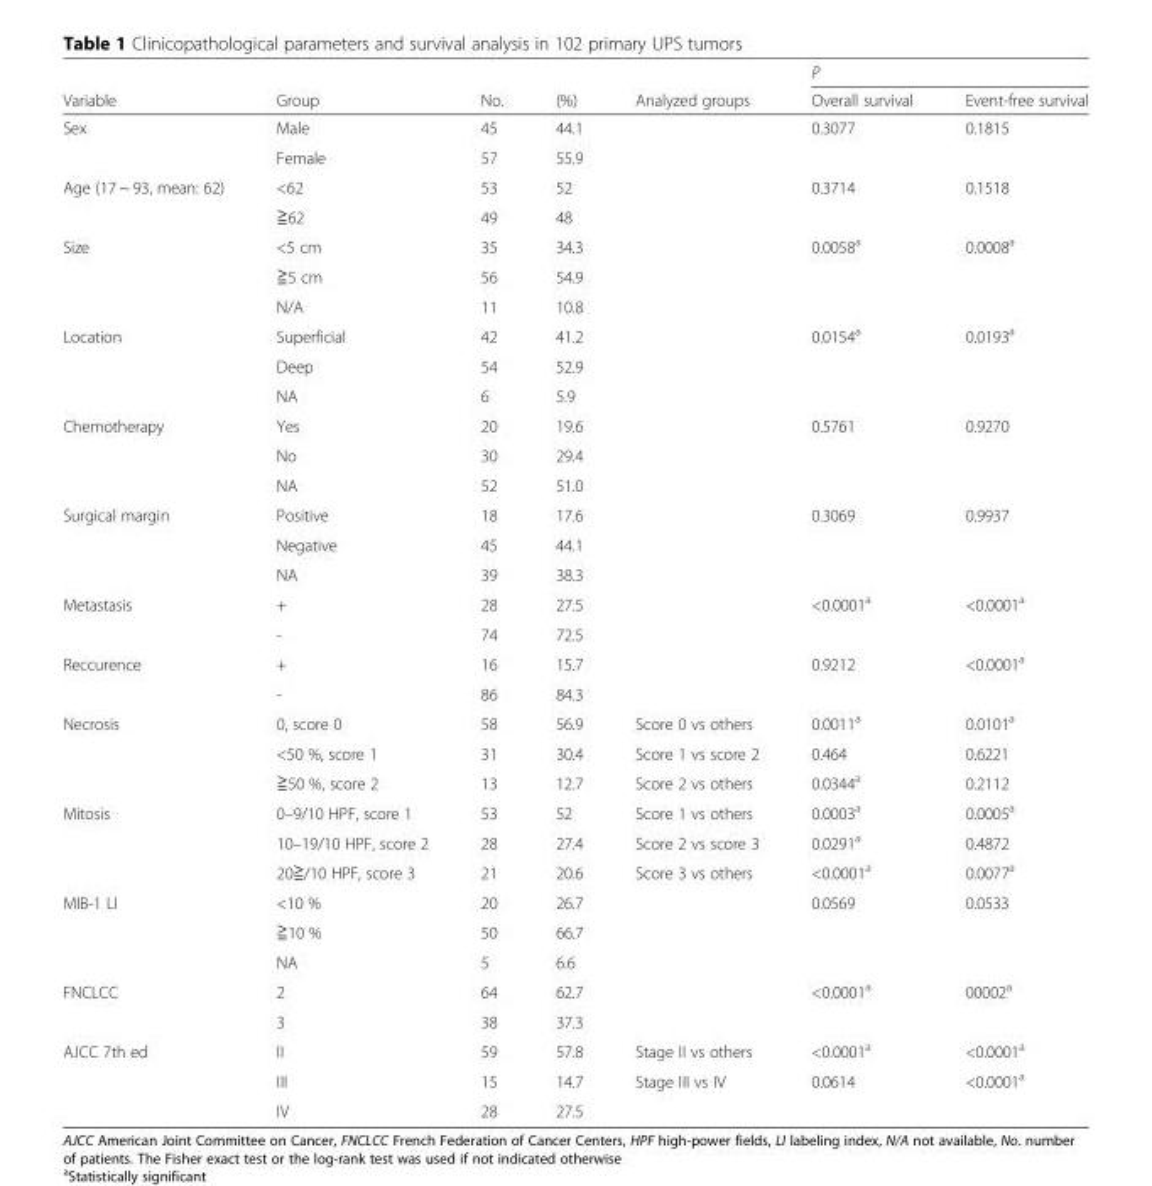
<table><thead><tr><td rowspan="2">Variable</td><td rowspan="2">Group</td><td rowspan="2">No.</td><td rowspan="2">(%)</td><td rowspan="2">Analyzed groups</td><td colspan="2">P</td></tr><tr><td>Overall survival</td><td>Event-free survival</td></tr></thead><tbody><tr><td rowspan="2">Sex</td><td>Male</td><td>45</td><td>44.1</td><td rowspan="2"></td><td rowspan="2">0.3077</td><td rowspan="2">0.1815</td></tr><tr><td>Female</td><td>57</td><td>55.9</td></tr><tr><td rowspan="2">Age (17 ~ 93, mean: 62)</td><td>&lt;62</td><td>53</td><td>52</td><td rowspan="2"></td><td rowspan="2">0.3714</td><td rowspan="2">0.1518</td></tr><tr><td>≧62</td><td>49</td><td>48</td></tr><tr><td rowspan="3">Size</td><td>&lt;5 cm</td><td>35</td><td>34.3</td><td rowspan="3"></td><td rowspan="3">0.0058<sup>a</sup></td><td rowspan="3">0.0008<sup>a</sup></td></tr><tr><td>≧5 cm</td><td>56</td><td>54.9</td></tr><tr><td>N/A</td><td>11</td><td>10.8</td></tr><tr><td rowspan="3">Location</td><td>Superficial</td><td>42</td><td>41.2</td><td rowspan="3"></td><td rowspan="3">0.0154<sup>a</sup></td><td rowspan="3">0.0193<sup>a</sup></td></tr><tr><td>Deep</td><td>54</td><td>52.9</td></tr><tr><td>NA</td><td>6</td><td>5.9</td></tr><tr><td rowspan="3">Chemotherapy</td><td>Yes</td><td>20</td><td>19.6</td><td rowspan="3"></td><td rowspan="3">0.5761</td><td rowspan="3">0.9270</td></tr><tr><td>No</td><td>30</td><td>29.4</td></tr><tr><td>NA</td><td>52</td><td>51.0</td></tr><tr><td rowspan="3">Surgical margin</td><td>Positive</td><td>18</td><td>17.6</td><td rowspan="3"></td><td rowspan="3">0.3069</td><td rowspan="3">0.9937</td></tr><tr><td>Negative</td><td>45</td><td>44.1</td></tr><tr><td>NA</td><td>39</td><td>38.3</td></tr><tr><td rowspan="2">Metastasis</td><td>+</td><td>28</td><td>27.5</td><td rowspan="2"></td><td rowspan="2">&lt;0.0001<sup>a</sup></td><td rowspan="2">&lt;0.0001<sup>a</sup></td></tr><tr><td>-</td><td>74</td><td>72.5</td></tr><tr><td rowspan="2">Reccurence</td><td>+</td><td>16</td><td>15.7</td><td rowspan="2"></td><td rowspan="2">0.9212</td><td rowspan="2">&lt;0.0001<sup>a</sup></td></tr><tr><td>-</td><td>86</td><td>84.3</td></tr><tr><td rowspan="3">Necrosis</td><td>0, score 0</td><td>58</td><td>56.9</td><td>Score 0 vs others</td><td>0.0011<sup>a</sup></td><td>0.0101<sup>a</sup></td></tr><tr><td>&lt;50 %, score 1</td><td>31</td><td>30.4</td><td>Score 1 vs score 2</td><td>0.464</td><td>0.6221</td></tr><tr><td>≧50 %, score 2</td><td>13</td><td>12.7</td><td>Score 2 vs others</td><td>0.0344<sup>a</sup></td><td>0.2112</td></tr><tr><td rowspan="3">Mitosis</td><td>0–9/10 HPF, score 1</td><td>53</td><td>52</td><td>Score 1 vs others</td><td>0.0003<sup>a</sup></td><td>0.0005<sup>a</sup></td></tr><tr><td>10–19/10 HPF, score 2</td><td>28</td><td>27.4</td><td>Score 2 vs score 3</td><td>0.0291<sup>a</sup></td><td>0.4872</td></tr><tr><td>20≧/10 HPF, score 3</td><td>21</td><td>20.6</td><td>Score 3 vs others</td><td>&lt;0.0001<sup>a</sup></td><td>0.0077<sup>a</sup></td></tr><tr><td rowspan="3">MIB-1 LI</td><td>&lt;10 %</td><td>20</td><td>26.7</td><td></td><td rowspan="3">0.0569</td><td rowspan="3">0.0533</td></tr><tr><td>≧10 %</td><td>50</td><td>66.7</td><td></td></tr><tr><td>NA</td><td>5</td><td>6.6</td><td></td></tr><tr><td rowspan="2">FNCLCC</td><td>2</td><td>64</td><td>62.7</td><td></td><td rowspan="2">&lt;0.0001<sup>a</sup></td><td rowspan="2">00002<sup>a</sup></td></tr><tr><td>3</td><td>38</td><td>37.3</td><td></td></tr><tr><td rowspan="3">AJCC 7th ed</td><td>II</td><td>59</td><td>57.8</td><td>Stage II vs others</td><td>&lt;0.0001<sup>a</sup></td><td>&lt;0.0001<sup>a</sup></td></tr><tr><td>III</td><td>15</td><td>14.7</td><td>Stage III vs IV</td><td>0.0614</td><td>&lt;0.0001<sup>a</sup></td></tr><tr><td>IV</td><td>28</td><td>27.5</td><td></td><td></td><td></td></tr></tbody></table>